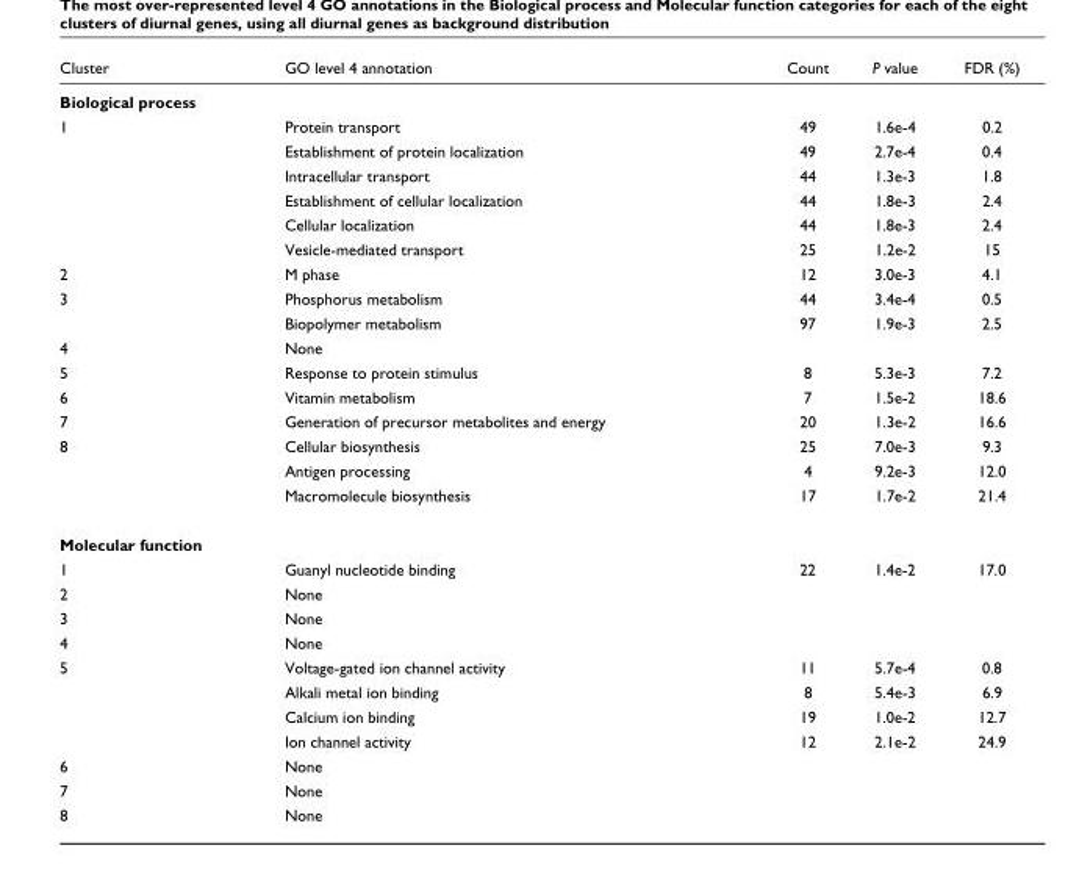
<table><thead><tr><td>Cluster</td><td>GO level 4 annotation</td><td>Count</td><td>P value</td><td>FDR (%)</td></tr></thead><tbody><tr><td colspan="5">Biological process</td></tr><tr><td rowspan="6">1</td><td>Protein transport</td><td>49</td><td>1.6e-4</td><td>0.2</td></tr><tr><td>Establishment of protein localization</td><td>49</td><td>2.7e-4</td><td>0.4</td></tr><tr><td>Intracellular transport</td><td>44</td><td>1.3e-3</td><td>1.8</td></tr><tr><td>Establishment of cellular localization</td><td>44</td><td>1.8e-3</td><td>2.4</td></tr><tr><td>Cellular localization</td><td>44</td><td>1.8e-3</td><td>2.4</td></tr><tr><td>Vesicle-mediated transport</td><td>25</td><td>1.2e-2</td><td>15</td></tr><tr><td>2</td><td>M phase</td><td>12</td><td>3.0e-3</td><td>4.1</td></tr><tr><td rowspan="2">3</td><td>Phosphorus metabolism</td><td>44</td><td>3.4e-4</td><td>0.5</td></tr><tr><td>Biopolymer metabolism</td><td>97</td><td>1.9e-3</td><td>2.5</td></tr><tr><td>4</td><td>None</td><td></td><td></td><td></td></tr><tr><td>5</td><td>Response to protein stimulus</td><td>8</td><td>5.3e-3</td><td>7.2</td></tr><tr><td>6</td><td>Vitamin metabolism</td><td>7</td><td>1.5e-2</td><td>18.6</td></tr><tr><td>7</td><td>Generation of precursor metabolites and energy</td><td>20</td><td>1.3e-2</td><td>16.6</td></tr><tr><td rowspan="3">8</td><td>Cellular biosynthesis</td><td>25</td><td>7.0e-3</td><td>9.3</td></tr><tr><td>Antigen processing</td><td>4</td><td>9.2e-3</td><td>12.0</td></tr><tr><td>Macromolecule biosynthesis</td><td>17</td><td>1.7e-2</td><td>21.4</td></tr><tr><td colspan="5">Molecular function</td></tr><tr><td>1</td><td>Guanyl nucleotide binding</td><td>22</td><td>1.4e-2</td><td>17.0</td></tr><tr><td>2</td><td>None</td><td></td><td></td><td></td></tr><tr><td>3</td><td>None</td><td></td><td></td><td></td></tr><tr><td>4</td><td>None</td><td></td><td></td><td></td></tr><tr><td rowspan="4">5</td><td>Voltage-gated ion channel activity</td><td>11</td><td>5.7e-4</td><td>0.8</td></tr><tr><td>Alkali metal ion binding</td><td>8</td><td>5.4e-3</td><td>6.9</td></tr><tr><td>Calcium ion binding</td><td>19</td><td>1.0e-2</td><td>12.7</td></tr><tr><td>Ion channel activity</td><td>12</td><td>2.1e-2</td><td>24.9</td></tr><tr><td>6</td><td>None</td><td></td><td></td><td></td></tr><tr><td>7</td><td>None</td><td></td><td></td><td></td></tr><tr><td>8</td><td>None</td><td></td><td></td><td></td></tr></tbody></table>